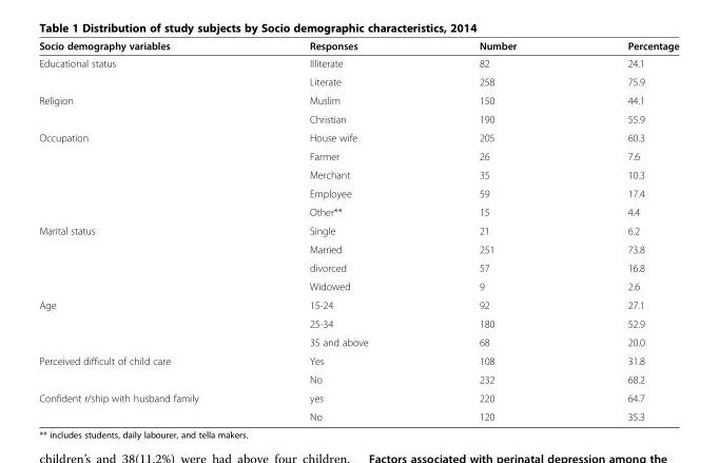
<table><thead><tr><td>Socio demography variables</td><td>Responses</td><td>Number</td><td>Percentage</td></tr></thead><tbody><tr><td rowspan="2">Educational status</td><td>Illiterate</td><td>82</td><td>24.1</td></tr><tr><td>Literate</td><td>258</td><td>75.9</td></tr><tr><td rowspan="2">Religion</td><td>Muslim</td><td>150</td><td>44.1</td></tr><tr><td>Christian</td><td>190</td><td>55.9</td></tr><tr><td rowspan="5">Occupation</td><td>House wife</td><td>205</td><td>60.3</td></tr><tr><td>Farmer</td><td>26</td><td>7.6</td></tr><tr><td>Merchant</td><td>35</td><td>10.3</td></tr><tr><td>Employee</td><td>59</td><td>17.4</td></tr><tr><td>Other**</td><td>15</td><td>4.4</td></tr><tr><td rowspan="4">Marital status</td><td>Single</td><td>21</td><td>6.2</td></tr><tr><td>Married</td><td>251</td><td>73.8</td></tr><tr><td>divorced</td><td>57</td><td>16.8</td></tr><tr><td>Widowed</td><td>9</td><td>2.6</td></tr><tr><td rowspan="3">Age</td><td>15-24</td><td>92</td><td>27.1</td></tr><tr><td>25-34</td><td>180</td><td>52.9</td></tr><tr><td>35 and above</td><td>68</td><td>20.0</td></tr><tr><td rowspan="2">Perceived difficult of child care</td><td>Yes</td><td>108</td><td>31.8</td></tr><tr><td>No</td><td>232</td><td>68.2</td></tr><tr><td rowspan="2">Confident r/ship with husband family</td><td>yes</td><td>220</td><td>64.7</td></tr><tr><td>No</td><td>120</td><td>35.3</td></tr></tbody></table>